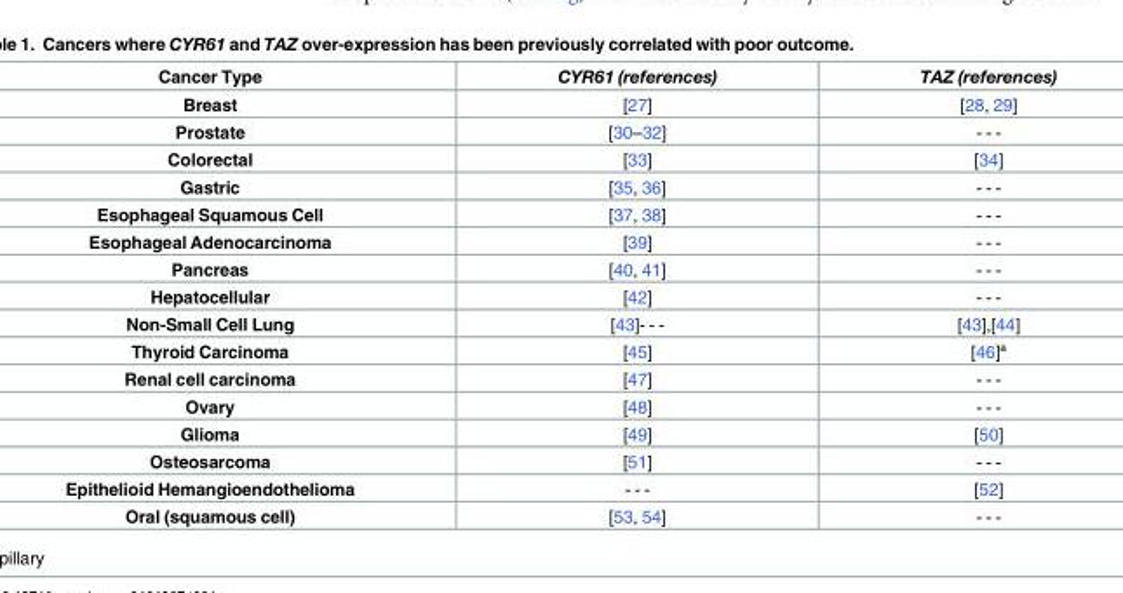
<table><thead><tr><td>Cancer Type</td><td>CYR61 (references)</td><td>TAZ (references)</td></tr></thead><tbody><tr><td>Breast</td><td>[27]</td><td>[28, 29]</td></tr><tr><td>Prostate</td><td>[30–32]</td><td>- - -</td></tr><tr><td>Colorectal</td><td>[33]</td><td>[34]</td></tr><tr><td>Gastric</td><td>[35, 36]</td><td>- - -</td></tr><tr><td>Esophageal Squamous Cell</td><td>[37, 38]</td><td>- - -</td></tr><tr><td>Esophageal Adenocarcinoma</td><td>[39]</td><td>- - -</td></tr><tr><td>Pancreas</td><td>[40, 41]</td><td>- - -</td></tr><tr><td>Hepatocellular</td><td>[42]</td><td>- - -</td></tr><tr><td>Non-Small Cell Lung</td><td>[43]- - -</td><td>[43],[44]</td></tr><tr><td>Thyroid Carcinoma</td><td>[45]</td><td>[46]ª</td></tr><tr><td>Renal cell carcinoma</td><td>[47]</td><td>- - -</td></tr><tr><td>Ovary</td><td>[48]</td><td>- - -</td></tr><tr><td>Glioma</td><td>[49]</td><td>[50]</td></tr><tr><td>Osteosarcoma</td><td>[51]</td><td>- - -</td></tr><tr><td>Epithelioid Hemangioendothelioma</td><td>- - -</td><td>[52]</td></tr><tr><td>Oral (squamous cell)</td><td>[53, 54]</td><td>- - -</td></tr></tbody></table>